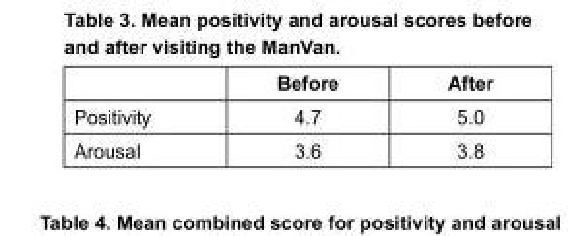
<table><thead><tr><td></td><td>Before</td><td>After</td></tr></thead><tbody><tr><td>Positivity</td><td>4.7</td><td>5.0</td></tr><tr><td>Arousal</td><td>3.6</td><td>3.8</td></tr></tbody></table>